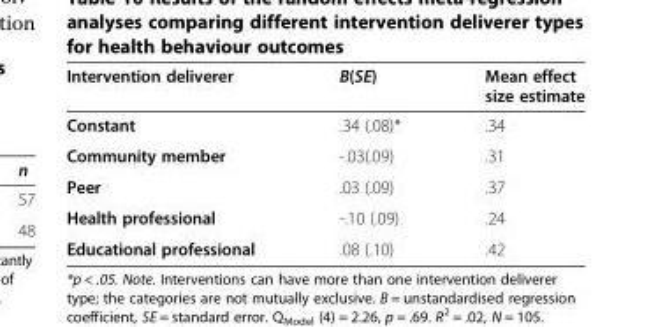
<table><thead><tr><td>Intervention deliverer</td><td>B(SE)</td><td>Mean effect size estimate</td></tr></thead><tbody><tr><td>Constant</td><td>.34 (.08)*</td><td>.34</td></tr><tr><td>Community member</td><td>-.03(.09)</td><td>.31</td></tr><tr><td>Peer</td><td>.03 (.09)</td><td>.37</td></tr><tr><td>Health professional</td><td>-.10 (.09)</td><td>.24</td></tr><tr><td>Educational professional</td><td>.08 (.10)</td><td>.42</td></tr></tbody></table>